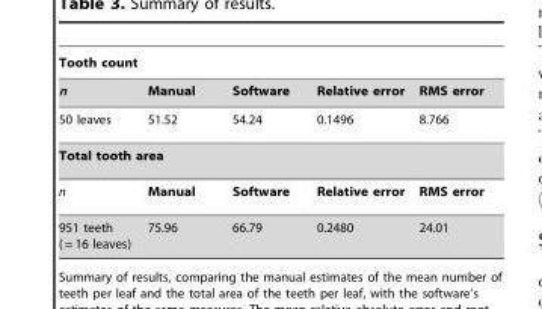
<table><thead><tr><td colspan="5">Tooth count</td></tr><tr><td>n</td><td>Manual</td><td>Software</td><td>Relative error</td><td>RMS error</td></tr></thead><tbody><tr><td>50 leaves</td><td>51.52</td><td>54.24</td><td>0.1496</td><td>8.766</td></tr><tr><td colspan="5">Total tooth area</td></tr><tr><td>n</td><td>Manual</td><td>Software</td><td>Relative error</td><td>RMS error</td></tr><tr><td>951 teeth ( = 16 leaves)</td><td>75.96</td><td>66.79</td><td>0.2480</td><td>24.01</td></tr></tbody></table>